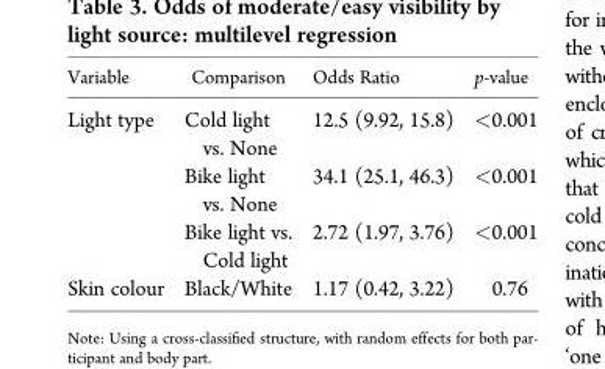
<table><thead><tr><td>Variable</td><td>Comparison</td><td>Odds Ratio</td><td>p-value</td></tr></thead><tbody><tr><td rowspan="3">Light type</td><td>Cold light vs. None</td><td>12.5 (9.92, 15.8)</td><td>&lt;0.001</td></tr><tr><td>Bike light vs. None</td><td>34.1 (25.1, 46.3)</td><td>&lt;0.001</td></tr><tr><td>Bike light vs. Cold light</td><td>2.72 (1.97, 3.76)</td><td>&lt;0.001</td></tr><tr><td>Skin colour</td><td>Black/White</td><td>1.17 (0.42, 3.22)</td><td>0.76</td></tr></tbody></table>